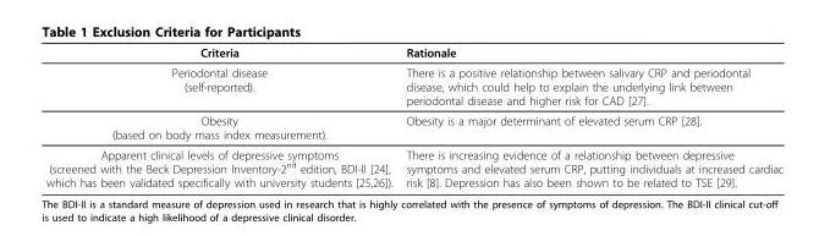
<table><thead><tr><td>Criteria</td><td>Rationale</td></tr></thead><tbody><tr><td>Periodontal disease (self-reported).</td><td>There is a positive relationship between salivary CRP and periodontal disease, which could help to explain the underlying link between periodontal disease and higher risk for CAD [27].</td></tr><tr><td>Obesity (based on body mass index measurement).</td><td>Obesity is a major determinant of elevated serum CRP [28].</td></tr><tr><td>Apparent clinical levels of depressive symptoms (screened with the Beck Depression Inventory-2<sup>nd</sup> edition, BDI-II [24], which has been validated specifically with university students [25,26]).</td><td>There is increasing evidence of a relationship between depressive symptoms and elevated serum CRP, putting individuals at increased cardiac risk [8]. Depression has also been shown to be related to TSE [29].</td></tr></tbody></table>